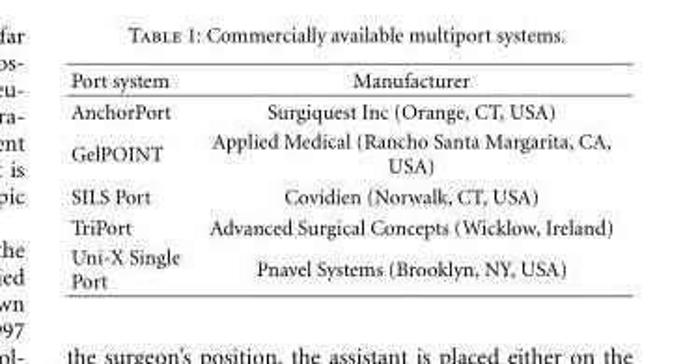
<table><thead><tr><td>Port system</td><td>Manufacturer</td></tr></thead><tbody><tr><td>AnchorPort</td><td>Surgiquest Inc (Orange, CT, USA)</td></tr><tr><td>GelPOINT</td><td>Applied Medical (Rancho Santa Margarita, CA, USA)</td></tr><tr><td>SILS Port</td><td>Covidien (Norwalk, CT, USA)</td></tr><tr><td>TriPort</td><td>Advanced Surgical Concepts (Wicklow, Ireland)</td></tr><tr><td>Uni-X Single Port</td><td>Pnavel Systems (Brooklyn, NY, USA)</td></tr></tbody></table>